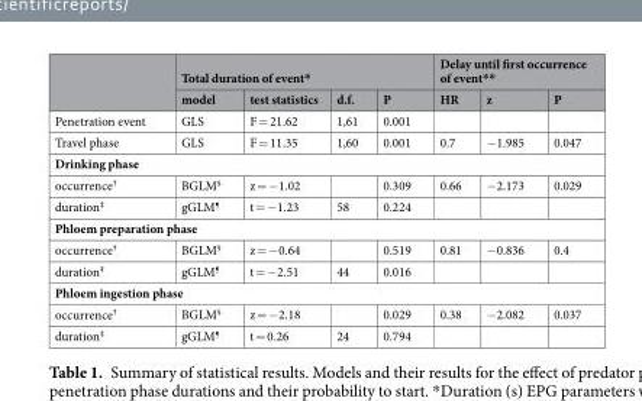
<table><thead><tr><td rowspan="2"></td><td colspan="4">Total duration of event*</td><td colspan="3">Delay until first occurrence of event**</td></tr><tr><td>model</td><td>test statistics</td><td>d.f.</td><td>P</td><td>HR</td><td>z</td><td>P</td></tr></thead><tbody><tr><td>Penetration event</td><td>GLS</td><td>F = 21.62</td><td>1,61</td><td>0.001</td><td></td><td></td><td></td></tr><tr><td>Travel phase</td><td>GLS</td><td>F = 11.35</td><td>1,60</td><td>0.001</td><td>0.7</td><td>−1.985</td><td>0.047</td></tr><tr><td colspan="8">Drinking phase</td></tr><tr><td>occurrence<sup>†</sup></td><td>BGLM<sup>§</sup></td><td>z = −1.02</td><td></td><td>0.309</td><td>0.66</td><td>−2.173</td><td>0.029</td></tr><tr><td>duration<sup>‡</sup></td><td>gGLM<sup>¶</sup></td><td>t = −1.23</td><td>58</td><td>0.224</td><td></td><td></td><td></td></tr><tr><td colspan="8">Phloem preparation phase</td></tr><tr><td>occurrence<sup>†</sup></td><td>BGLM<sup>§</sup></td><td>z = −0.64</td><td></td><td>0.519</td><td>0.81</td><td>−0.836</td><td>0.4</td></tr><tr><td>duration<sup>‡</sup></td><td>gGLM<sup>¶</sup></td><td>t = −2.51</td><td>44</td><td>0.016</td><td></td><td></td><td></td></tr><tr><td colspan="8">Phloem ingestion phase</td></tr><tr><td>occurrence<sup>†</sup></td><td>BGLM<sup>§</sup></td><td>z = −2.18</td><td></td><td>0.029</td><td>0.38</td><td>−2.082</td><td>0.037</td></tr><tr><td>duration<sup>‡</sup></td><td>gGLM<sup>¶</sup></td><td>t = 0.26</td><td>24</td><td>0.794</td><td></td><td></td><td></td></tr></tbody></table>